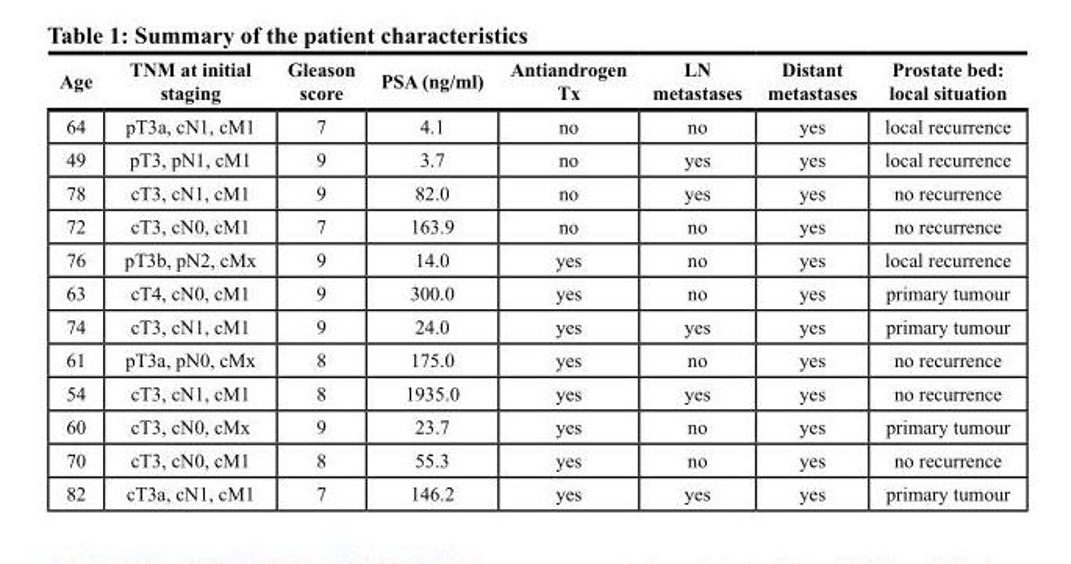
<table><thead><tr><td>Age</td><td>TNM at initial staging</td><td>Gleason score</td><td>PSA (ng/ml)</td><td>Antiandrogen Tx</td><td>LN metastases</td><td>Distant metastases</td><td>Prostate bed: local situation</td></tr></thead><tbody><tr><td>64</td><td>pT3a, cN1, cM1</td><td>7</td><td>4.1</td><td>no</td><td>no</td><td>yes</td><td>local recurrence</td></tr><tr><td>49</td><td>pT3, pN1, cM1</td><td>9</td><td>3.7</td><td>no</td><td>yes</td><td>yes</td><td>local recurrence</td></tr><tr><td>78</td><td>cT3, cN1, cM1</td><td>9</td><td>82.0</td><td>no</td><td>yes</td><td>yes</td><td>no recurrence</td></tr><tr><td>72</td><td>cT3, cN0, cM1</td><td>7</td><td>163.9</td><td>no</td><td>no</td><td>yes</td><td>no recurrence</td></tr><tr><td>76</td><td>pT3b, pN2, cMx</td><td>9</td><td>14.0</td><td>yes</td><td>no</td><td>yes</td><td>local recurrence</td></tr><tr><td>63</td><td>cT4, cN0, cM1</td><td>9</td><td>300.0</td><td>yes</td><td>no</td><td>yes</td><td>primary tumour</td></tr><tr><td>74</td><td>cT3, cN1, cM1</td><td>9</td><td>24.0</td><td>yes</td><td>yes</td><td>yes</td><td>primary tumour</td></tr><tr><td>61</td><td>pT3a, pN0, cMx</td><td>8</td><td>175.0</td><td>yes</td><td>no</td><td>yes</td><td>no recurrence</td></tr><tr><td>54</td><td>cT3, cN1, cM1</td><td>8</td><td>1935.0</td><td>yes</td><td>yes</td><td>yes</td><td>no recurrence</td></tr><tr><td>60</td><td>cT3, cN0, cMx</td><td>9</td><td>23.7</td><td>yes</td><td>no</td><td>yes</td><td>primary tumour</td></tr><tr><td>70</td><td>cT3, cN0, cM1</td><td>8</td><td>55.3</td><td>yes</td><td>no</td><td>yes</td><td>no recurrence</td></tr><tr><td>82</td><td>cT3a, cN1, cM1</td><td>7</td><td>146.2</td><td>yes</td><td>yes</td><td>yes</td><td>primary tumour</td></tr></tbody></table>